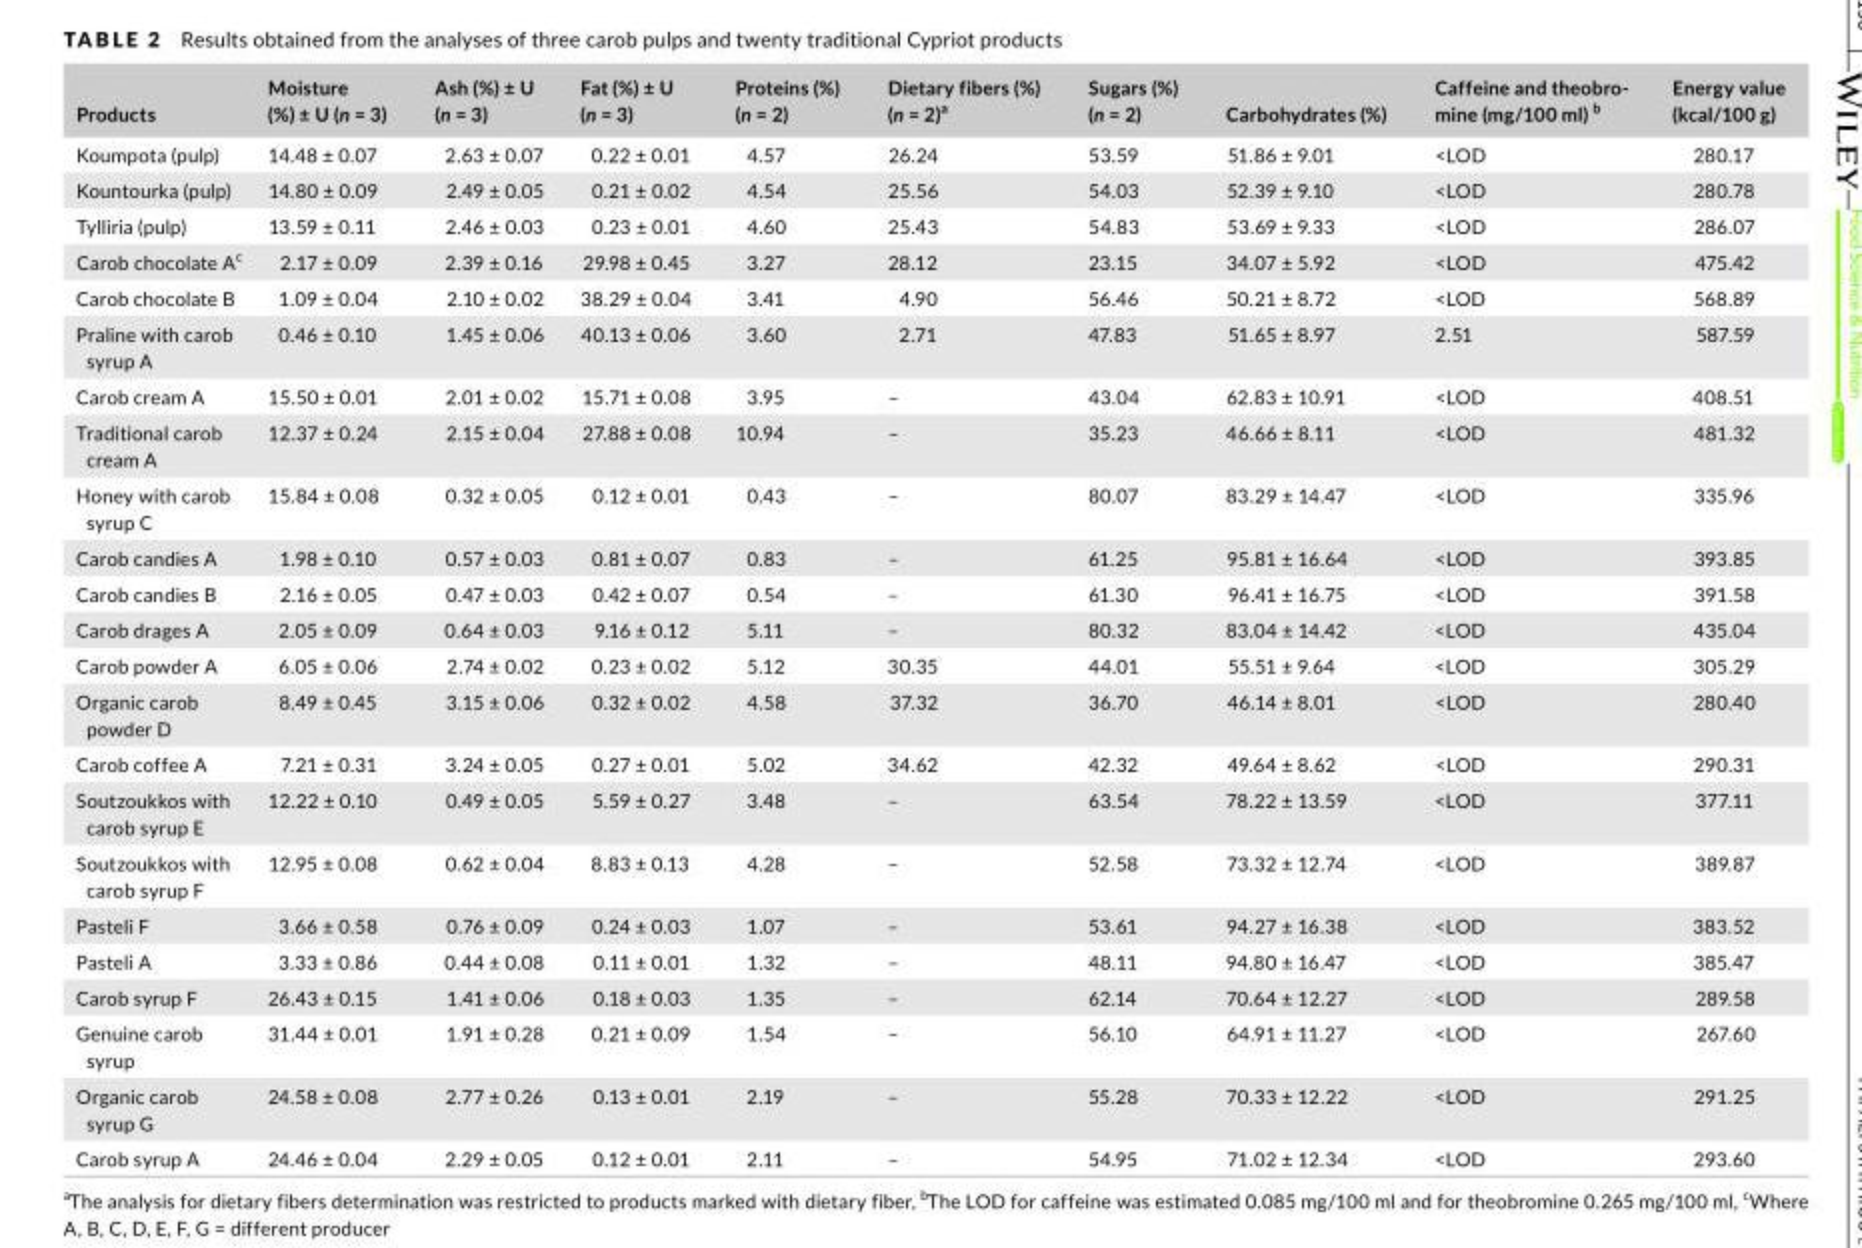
<table><thead><tr><td>Products</td><td>Moisture (%) ± U (n = 3)</td><td>Ash (%) ± U (n = 3)</td><td>Fat (%) ± U (n = 3)</td><td>Proteins (%) (n = 2)</td><td>Dietary fibers (%) (n = 2)<sup>a</sup></td><td>Sugars (%) (n = 2)</td><td>Carbohydrates (%)</td><td>Caffeine and theobro- mine (mg/100 ml) b</td><td>Energy value (kcal/100 g)</td></tr></thead><tbody><tr><td>Koumpota (pulp)</td><td>14.48 ± 0.07</td><td>2.63 ± 0.07</td><td>0.22 ± 0.01</td><td>4.57</td><td>26.24</td><td>53.59</td><td>51.86 ± 9.01</td><td>&lt;LOD</td><td>280.17</td></tr><tr><td>Kountourka (pulp)</td><td>14.80 ± 0.09</td><td>2.49 ± 0.05</td><td>0.21 ± 0.02</td><td>4.54</td><td>25.56</td><td>54.03</td><td>52.39 ± 9.10</td><td>&lt;LOD</td><td>280.78</td></tr><tr><td>Tylliria (pulp)</td><td>13.59 ± 0.11</td><td>2.46 ± 0.03</td><td>0.23 ± 0.01</td><td>4.60</td><td>25.43</td><td>54.83</td><td>53.69 ± 9.33</td><td>&lt;LOD</td><td>286.07</td></tr><tr><td>Carob chocolate A<sup>c</sup></td><td>2.17 ± 0.09</td><td>2.39 ± 0.16</td><td>29.98 ± 0.45</td><td>3.27</td><td>28.12</td><td>23.15</td><td>34.07 ± 5.92</td><td>&lt;LOD</td><td>475.42</td></tr><tr><td>Carob chocolate B</td><td>1.09 ± 0.04</td><td>2.10 ± 0.02</td><td>38.29 ± 0.04</td><td>3.41</td><td>4.90</td><td>56.46</td><td>50.21 ± 8.72</td><td>&lt;LOD</td><td>568.89</td></tr><tr><td>Praline with carob syrup A</td><td>0.46 ± 0.10</td><td>1.45 ± 0.06</td><td>40.13 ± 0.06</td><td>3.60</td><td>2.71</td><td>47.83</td><td>51.65 ± 8.97</td><td>2.51</td><td>587.59</td></tr><tr><td>Carob cream A</td><td>15.50 ± 0.01</td><td>2.01 ± 0.02</td><td>15.71 ± 0.08</td><td>3.95</td><td>–</td><td>43.04</td><td>62.83 ± 10.91</td><td>&lt;LOD</td><td>408.51</td></tr><tr><td>Traditional carob cream A</td><td>12.37 ± 0.24</td><td>2.15 ± 0.04</td><td>27.88 ± 0.08</td><td>10.94</td><td>–</td><td>35.23</td><td>46.66 ± 8.11</td><td>&lt;LOD</td><td>481.32</td></tr><tr><td>Honey with carob syrup C</td><td>15.84 ± 0.08</td><td>0.32 ± 0.05</td><td>0.12 ± 0.01</td><td>0.43</td><td>–</td><td>80.07</td><td>83.29 ± 14.47</td><td>&lt;LOD</td><td>335.96</td></tr><tr><td>Carob candies A</td><td>1.98 ± 0.10</td><td>0.57 ± 0.03</td><td>0.81 ± 0.07</td><td>0.83</td><td>–</td><td>61.25</td><td>95.81 ± 16.64</td><td>&lt;LOD</td><td>393.85</td></tr><tr><td>Carob candies B</td><td>2.16 ± 0.05</td><td>0.47 ± 0.03</td><td>0.42 ± 0.07</td><td>0.54</td><td>–</td><td>61.30</td><td>96.41 ± 16.75</td><td>&lt;LOD</td><td>391.58</td></tr><tr><td>Carob drages A</td><td>2.05 ± 0.09</td><td>0.64 ± 0.03</td><td>9.16 ± 0.12</td><td>5.11</td><td>–</td><td>80.32</td><td>83.04 ± 14.42</td><td>&lt;LOD</td><td>435.04</td></tr><tr><td>Carob powder A</td><td>6.05 ± 0.06</td><td>2.74 ± 0.02</td><td>0.23 ± 0.02</td><td>5.12</td><td>30.35</td><td>44.01</td><td>55.51 ± 9.64</td><td>&lt;LOD</td><td>305.29</td></tr><tr><td>Organic carob powder D</td><td>8.49 ± 0.45</td><td>3.15 ± 0.06</td><td>0.32 ± 0.02</td><td>4.58</td><td>37.32</td><td>36.70</td><td>46.14 ± 8.01</td><td>&lt;LOD</td><td>280.40</td></tr><tr><td>Carob coffee A</td><td>7.21 ± 0.31</td><td>3.24 ± 0.05</td><td>0.27 ± 0.01</td><td>5.02</td><td>34.62</td><td>42.32</td><td>49.64 ± 8.62</td><td>&lt;LOD</td><td>290.31</td></tr><tr><td>Soutzoukkos with carob syrup E</td><td>12.22 ± 0.10</td><td>0.49 ± 0.05</td><td>5.59 ± 0.27</td><td>3.48</td><td>–</td><td>63.54</td><td>78.22 ± 13.59</td><td>&lt;LOD</td><td>377.11</td></tr><tr><td>Soutzoukkos with carob syrup F</td><td>12.95 ± 0.08</td><td>0.62 ± 0.04</td><td>8.83 ± 0.13</td><td>4.28</td><td>–</td><td>52.58</td><td>73.32 ± 12.74</td><td>&lt;LOD</td><td>389.87</td></tr><tr><td>Pasteli F</td><td>3.66 ± 0.58</td><td>0.76 ± 0.09</td><td>0.24 ± 0.03</td><td>1.07</td><td>–</td><td>53.61</td><td>94.27 ± 16.38</td><td>&lt;LOD</td><td>383.52</td></tr><tr><td>Pasteli A</td><td>3.33 ± 0.86</td><td>0.44 ± 0.08</td><td>0.11 ± 0.01</td><td>1.32</td><td>–</td><td>48.11</td><td>94.80 ± 16.47</td><td>&lt;LOD</td><td>385.47</td></tr><tr><td>Carob syrup F</td><td>26.43 ± 0.15</td><td>1.41 ± 0.06</td><td>0.18 ± 0.03</td><td>1.35</td><td>–</td><td>62.14</td><td>70.64 ± 12.27</td><td>&lt;LOD</td><td>289.58</td></tr><tr><td>Genuine carob syrup</td><td>31.44 ± 0.01</td><td>1.91 ± 0.28</td><td>0.21 ± 0.09</td><td>1.54</td><td>–</td><td>56.10</td><td>64.91 ± 11.27</td><td>&lt;LOD</td><td>267.60</td></tr><tr><td>Organic carob syrup G</td><td>24.58 ± 0.08</td><td>2.77 ± 0.26</td><td>0.13 ± 0.01</td><td>2.19</td><td>–</td><td>55.28</td><td>70.33 ± 12.22</td><td>&lt;LOD</td><td>291.25</td></tr><tr><td>Carob syrup A</td><td>24.46 ± 0.04</td><td>2.29 ± 0.05</td><td>0.12 ± 0.01</td><td>2.11</td><td>–</td><td>54.95</td><td>71.02 ± 12.34</td><td>&lt;LOD</td><td>293.60</td></tr></tbody></table>